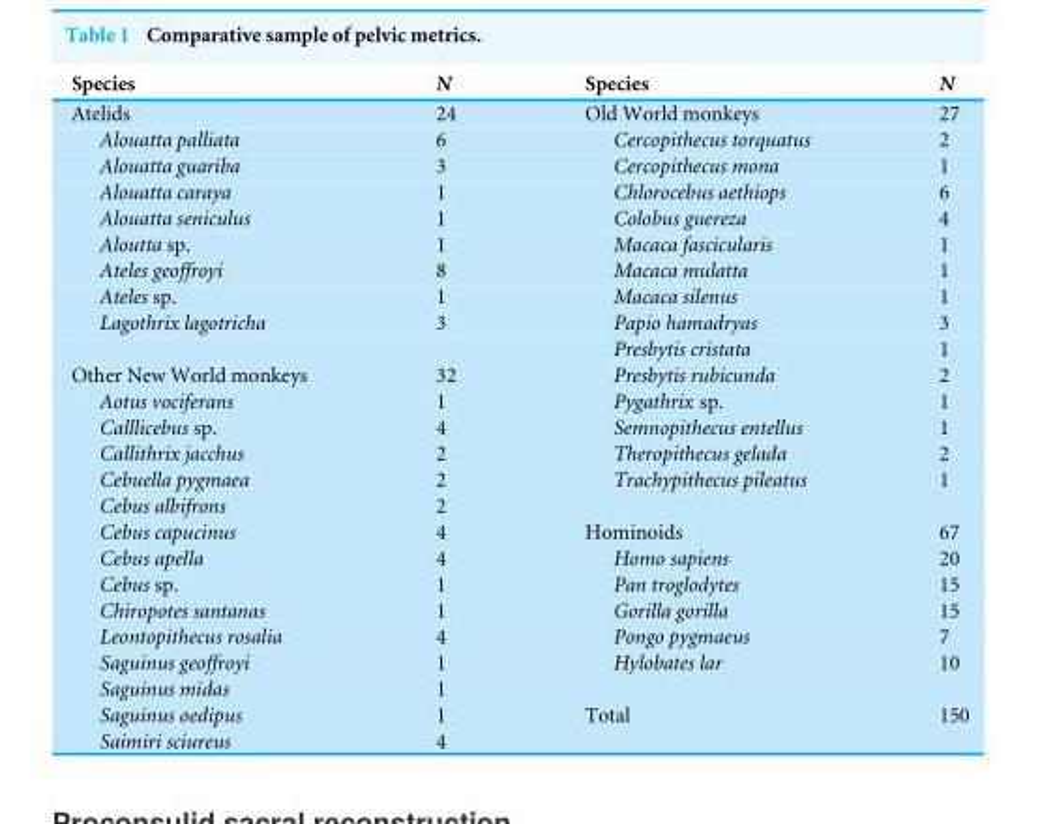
<table><thead><tr><td>Species</td><td>N</td><td>Species</td><td>N</td></tr></thead><tbody><tr><td>Atelids</td><td>24</td><td>Old World monkeys</td><td>27</td></tr><tr><td>Alouatta palliata</td><td>6</td><td>Cercopithecus torquatus</td><td>2</td></tr><tr><td>Alouatta guariba</td><td>3</td><td>Cercopithecus mona</td><td>1</td></tr><tr><td>Alouatta caraya</td><td>1</td><td>Chlorocebus aethiops</td><td>6</td></tr><tr><td>Alouatta seniculus</td><td>1</td><td>Colobus guereza</td><td>4</td></tr><tr><td>Aloutta sp.</td><td>1</td><td>Macaca fascicularis</td><td>1</td></tr><tr><td>Ateles geoffroyi</td><td>8</td><td>Macaca mulatta</td><td>1</td></tr><tr><td>Ateles sp.</td><td>1</td><td>Macaca silenus</td><td>1</td></tr><tr><td rowspan="2">Lagothrix lagotricha</td><td>3</td><td>Papio hamadryas</td><td>3</td></tr><tr><td></td><td>Presbytis cristata</td><td>1</td></tr><tr><td>Other New World monkeys</td><td>32</td><td>Presbytis rubicunda</td><td>2</td></tr><tr><td>Aotus vociferans</td><td>1</td><td>Pygathrix sp.</td><td>1</td></tr><tr><td>Calllicebus sp.</td><td>4</td><td>Semnopithecus entellus</td><td>1</td></tr><tr><td>Callithrix jacchus</td><td>2</td><td>Theropithecus gelada</td><td>2</td></tr><tr><td>Cebuella pygmaea</td><td>2</td><td>Trachypithecus pileatus</td><td>1</td></tr><tr><td>Cebus albifrons</td><td>2</td><td></td><td></td></tr><tr><td>Cebus capucinus</td><td>4</td><td>Hominoids</td><td>67</td></tr><tr><td>Cebus apella</td><td>4</td><td>Homo sapiens</td><td>20</td></tr><tr><td>Cebus sp.</td><td>1</td><td>Pan troglodytes</td><td>15</td></tr><tr><td>Chiropotes santanas</td><td>1</td><td>Gorilla gorilla</td><td>15</td></tr><tr><td>Leontopithecus rosalia</td><td>4</td><td>Pongo pygmaeus</td><td>7</td></tr><tr><td>Saguinus geoffroyi</td><td>1</td><td>Hylobates lar</td><td>10</td></tr><tr><td>Saguinus midas</td><td>1</td><td></td><td></td></tr><tr><td>Saguinus oedipus</td><td>1</td><td>Total</td><td>150</td></tr><tr><td>Saimiri sciureus</td><td>4</td><td></td><td></td></tr></tbody></table>